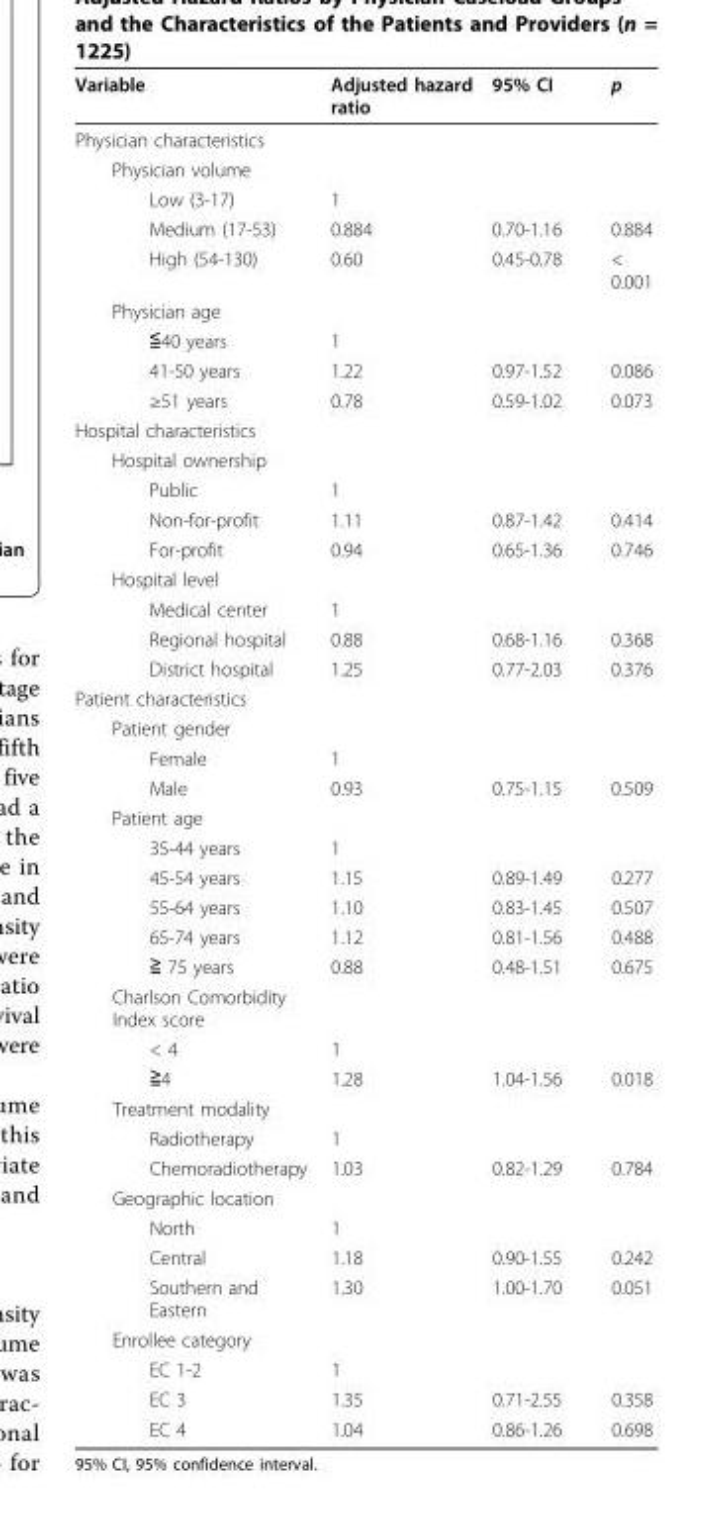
<table><thead><tr><td>Variable</td><td>Adjusted hazard ratio</td><td>95% CI</td><td>p</td></tr></thead><tbody><tr><td colspan="4">Physician characteristics</td></tr><tr><td colspan="4">Physician volume</td></tr><tr><td>Low (3-17)</td><td>1</td><td></td><td></td></tr><tr><td>Medium (17-53)</td><td>0.884</td><td>0.70-1.16</td><td>0.884</td></tr><tr><td>High (54-130)</td><td>0.60</td><td>0.45-0.78</td><td>&lt; 0.001</td></tr><tr><td colspan="4">Physician age</td></tr><tr><td>≦40 years</td><td>1</td><td></td><td></td></tr><tr><td>41-50 years</td><td>1.22</td><td>0.97-1.52</td><td>0.086</td></tr><tr><td>≥51 years</td><td>0.78</td><td>0.59-1.02</td><td>0.073</td></tr><tr><td colspan="4">Hospital characteristics</td></tr><tr><td colspan="4">Hospital ownership</td></tr><tr><td>Public</td><td>1</td><td></td><td></td></tr><tr><td>Non-for-profit</td><td>1.11</td><td>0.87-1.42</td><td>0.414</td></tr><tr><td>For-profit</td><td>0.94</td><td>0.65-1.36</td><td>0.746</td></tr><tr><td colspan="4">Hospital level</td></tr><tr><td>Medical center</td><td>1</td><td></td><td></td></tr><tr><td>Regional hospital</td><td>0.88</td><td>0.68-1.16</td><td>0.368</td></tr><tr><td>District hospital</td><td>1.25</td><td>0.77-2.03</td><td>0.376</td></tr><tr><td colspan="4">Patient characteristics</td></tr><tr><td colspan="4">Patient gender</td></tr><tr><td>Female</td><td>1</td><td></td><td></td></tr><tr><td>Male</td><td>0.93</td><td>0.75-1.15</td><td>0.509</td></tr><tr><td colspan="4">Patient age</td></tr><tr><td>35-44 years</td><td>1</td><td></td><td></td></tr><tr><td>45-54 years</td><td>1.15</td><td>0.89-1.49</td><td>0.277</td></tr><tr><td>55-64 years</td><td>1.10</td><td>0.83-1.45</td><td>0.507</td></tr><tr><td>65-74 years</td><td>1.12</td><td>0.81-1.56</td><td>0.488</td></tr><tr><td>≧ 75 years</td><td>0.88</td><td>0.48-1.51</td><td>0.675</td></tr><tr><td colspan="4">Charlson Comorbidity Index score</td></tr><tr><td>&lt; 4</td><td>1</td><td></td><td></td></tr><tr><td>≧4</td><td>1.28</td><td>1.04-1.56</td><td>0.018</td></tr><tr><td colspan="4">Treatment modality</td></tr><tr><td>Radiotherapy</td><td>1</td><td></td><td></td></tr><tr><td>Chemoradiotherapy</td><td>1.03</td><td>0.82-1.29</td><td>0.784</td></tr><tr><td colspan="4">Geographic location</td></tr><tr><td>North</td><td>1</td><td></td><td></td></tr><tr><td>Central</td><td>1.18</td><td>0.90-1.55</td><td>0.242</td></tr><tr><td>Southern and Eastern</td><td>1.30</td><td>1.00-1.70</td><td>0.051</td></tr><tr><td colspan="4">Enrollee category</td></tr><tr><td>EC 1-2</td><td>1</td><td></td><td></td></tr><tr><td>EC 3</td><td>1.35</td><td>0.71-2.55</td><td>0.358</td></tr><tr><td>EC 4</td><td>1.04</td><td>0.86-1.26</td><td>0.698</td></tr></tbody></table>